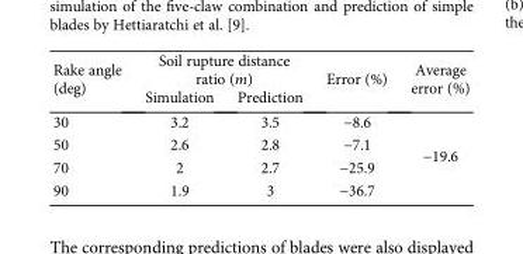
<table><thead><tr><td rowspan="2">Rake angle (deg)</td><td colspan="2">Soil rupture distance ratio (m)</td><td rowspan="2">Error (%)</td><td rowspan="2">Average error (%)</td></tr><tr><td>Simulation</td><td>Prediction</td></tr></thead><tbody><tr><td>30</td><td>3.2</td><td>3.5</td><td>−8.6</td><td rowspan="4">−19.6</td></tr><tr><td>50</td><td>2.6</td><td>2.8</td><td>−7.1</td></tr><tr><td>70</td><td>2</td><td>2.7</td><td>−25.9</td></tr><tr><td>90</td><td>1.9</td><td>3</td><td>−36.7</td></tr></tbody></table>